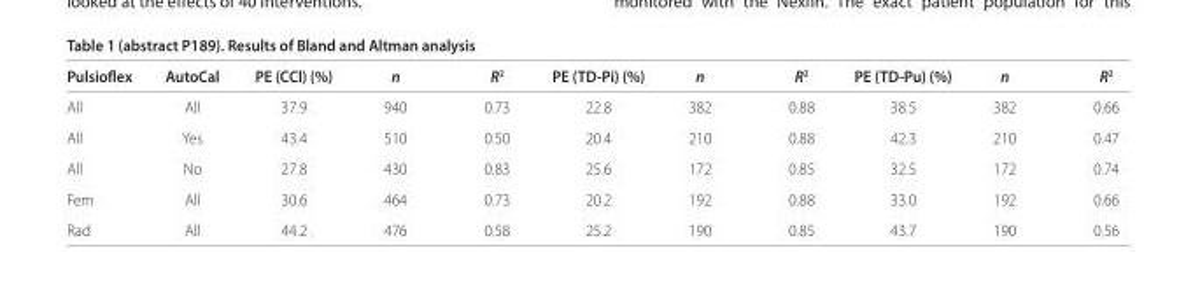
<table><thead><tr><td>Pulsiofl ex</td><td>AutoCal</td><td>PE (CCl) (%)</td><td>n</td><td>R<sup>2</sup></td><td>PE (TD-Pi) (%)</td><td>n</td><td>R<sup>2</sup></td><td>PE (TD-Pu) (%)</td><td>n</td><td>R<sup>2</sup></td></tr></thead><tbody><tr><td>All</td><td>All</td><td>37.9</td><td>940</td><td>0.73</td><td>22.8</td><td>382</td><td>0.88</td><td>38.5</td><td>382</td><td>0.66</td></tr><tr><td>All</td><td>Yes</td><td>43.4</td><td>510</td><td>0.50</td><td>20.4</td><td>210</td><td>0.88</td><td>42.3</td><td>210</td><td>0.47</td></tr><tr><td>All</td><td>No</td><td>27.8</td><td>430</td><td>0.83</td><td>25.6</td><td>172</td><td>0.85</td><td>32.5</td><td>172</td><td>0.74</td></tr><tr><td>Fem</td><td>All</td><td>30.6</td><td>464</td><td>0.73</td><td>20.2</td><td>192</td><td>0.88</td><td>33.0</td><td>192</td><td>0.66</td></tr><tr><td>Rad</td><td>All</td><td>44.2</td><td>476</td><td>0.58</td><td>25.2</td><td>190</td><td>0.85</td><td>43.7</td><td>190</td><td>0.56</td></tr></tbody></table>